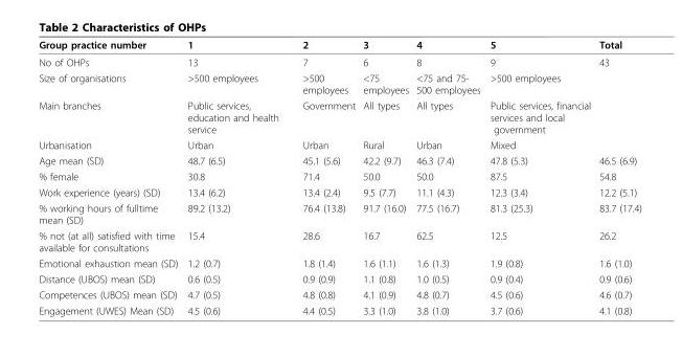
<table><thead><tr><td>Group practice number</td><td>1</td><td>2</td><td>3</td><td>4</td><td>5</td><td>Total</td></tr></thead><tbody><tr><td>No of OHPs</td><td>13</td><td>7</td><td>6</td><td>8</td><td>9</td><td>43</td></tr><tr><td>Size of organisations</td><td>&gt;500 employees</td><td>&gt;500 employees</td><td>&lt;75 employees</td><td>&lt;75 and 75- 500 employees</td><td>&gt;500 employees</td><td></td></tr><tr><td>Main branches</td><td>Public services, education and health service</td><td>Government</td><td>All types</td><td>All types</td><td>Public services, financial services and local government</td><td></td></tr><tr><td>Urbanisation</td><td>Urban</td><td>Urban</td><td>Rural</td><td>Urban</td><td>Mixed</td><td></td></tr><tr><td>Age mean (SD)</td><td>48.7 (6.5)</td><td>45.1 (5.6)</td><td>42.2 (9.7)</td><td>46.3 (7.4)</td><td>47.8 (5.3)</td><td>46.5 (6.9)</td></tr><tr><td>% female</td><td>30.8</td><td>71.4</td><td>50.0</td><td>50.0</td><td>87.5</td><td>54.8</td></tr><tr><td>Work experience (years) (SD)</td><td>13.4 (6.2)</td><td>13.4 (2.4)</td><td>9.5 (7.7)</td><td>11.1 (4.3)</td><td>12.3 (3.4)</td><td>12.2 (5.1)</td></tr><tr><td>% working hours of fulltime mean (SD)</td><td>89.2 (13.2)</td><td>76.4 (13.8)</td><td>91.7 (16.0)</td><td>77.5 (16.7)</td><td>81.3 (25.3)</td><td>83.7 (17.4)</td></tr><tr><td>% not (at all) satisfied with time available for consultations</td><td>15.4</td><td>28.6</td><td>16.7</td><td>62.5</td><td>12.5</td><td>26.2</td></tr><tr><td>Emotional exhaustion mean (SD)</td><td>1.2 (0.7)</td><td>1.8 (1.4)</td><td>1.6 (1.1)</td><td>1.6 (1.3)</td><td>1.9 (0.8)</td><td>1.6 (1.0)</td></tr><tr><td>Distance (UBOS) mean (SD)</td><td>0.6 (0.5)</td><td>0.9 (0.9)</td><td>1.1 (0.8)</td><td>1.0 (0.5)</td><td>0.9 (0.4)</td><td>0.9 (0.6)</td></tr><tr><td>Competences (UBOS) mean (SD)</td><td>4.7 (0.5)</td><td>4.8 (0.8)</td><td>4.1 (0.9)</td><td>4.8 (0.7)</td><td>4.5 (0.6)</td><td>4.6 (0.7)</td></tr><tr><td>Engagement (UWES) Mean (SD)</td><td>4.5 (0.6)</td><td>4.4 (0.5)</td><td>3.3 (1.0)</td><td>3.8 (1.0)</td><td>3.7 (0.6)</td><td>4.1 (0.8)</td></tr></tbody></table>